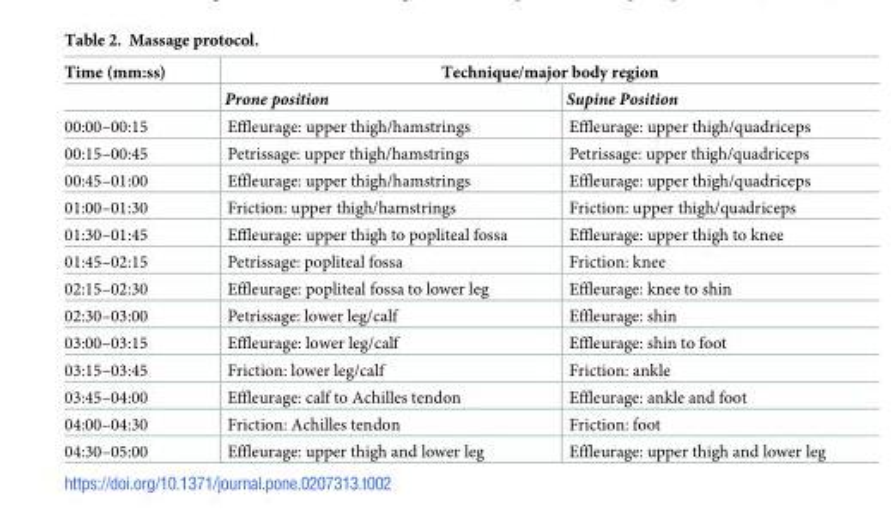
<table><thead><tr><td rowspan="2">Time (mm:ss)</td><td colspan="2">Technique/major body region</td></tr><tr><td>Prone position</td><td>Supine Position</td></tr></thead><tbody><tr><td>00:00–00:15</td><td>Effleurage: upper thigh/hamstrings</td><td>Effleurage: upper thigh/quadriceps</td></tr><tr><td>00:15–00:45</td><td>Petrissage: upper thigh/hamstrings</td><td>Petrissage: upper thigh/quadriceps</td></tr><tr><td>00:45–01:00</td><td>Effleurage: upper thigh/hamstrings</td><td>Effleurage: upper thigh/quadriceps</td></tr><tr><td>01:00–01:30</td><td>Friction: upper thigh/hamstrings</td><td>Friction: upper thigh/quadriceps</td></tr><tr><td>01:30–01:45</td><td>Effleurage: upper thigh to popliteal fossa</td><td>Effleurage: upper thigh to knee</td></tr><tr><td>01:45–02:15</td><td>Petrissage: popliteal fossa</td><td>Friction: knee</td></tr><tr><td>02:15–02:30</td><td>Effleurage: popliteal fossa to lower leg</td><td>Effleurage: knee to shin</td></tr><tr><td>02:30–03:00</td><td>Petrissage: lower leg/calf</td><td>Effleurage: shin</td></tr><tr><td>03:00–03:15</td><td>Effleurage: lower leg/calf</td><td>Effleurage: shin to foot</td></tr><tr><td>03:15–03:45</td><td>Friction: lower leg/calf</td><td>Friction: ankle</td></tr><tr><td>03:45–04:00</td><td>Effleurage: calf to Achilles tendon</td><td>Effleurage: ankle and foot</td></tr><tr><td>04:00–04:30</td><td>Friction: Achilles tendon</td><td>Friction: foot</td></tr><tr><td>04:30–05:00</td><td>Effleurage: upper thigh and lower leg</td><td>Effleurage: upper thigh and lower leg</td></tr></tbody></table>